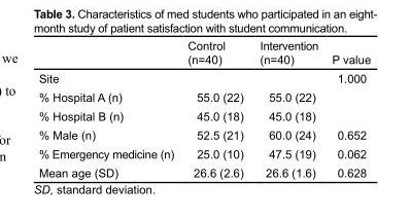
<table><thead><tr><td></td><td>Control (n=40)</td><td>Intervention (n=40)</td><td>P value</td></tr></thead><tbody><tr><td>Site</td><td></td><td></td><td>1.000</td></tr><tr><td>% Hospital A (n)</td><td>55.0 (22)</td><td>55.0 (22)</td><td></td></tr><tr><td>% Hospital B (n)</td><td>45.0 (18)</td><td>45.0 (18)</td><td></td></tr><tr><td>% Male (n)</td><td>52.5 (21)</td><td>60.0 (24)</td><td>0.652</td></tr><tr><td>% Emergency medicine (n)</td><td>25.0 (10)</td><td>47.5 (19)</td><td>0.062</td></tr><tr><td>Mean age (SD)</td><td>26.6 (2.6)</td><td>26.6 (1.6)</td><td>0.628</td></tr></tbody></table>